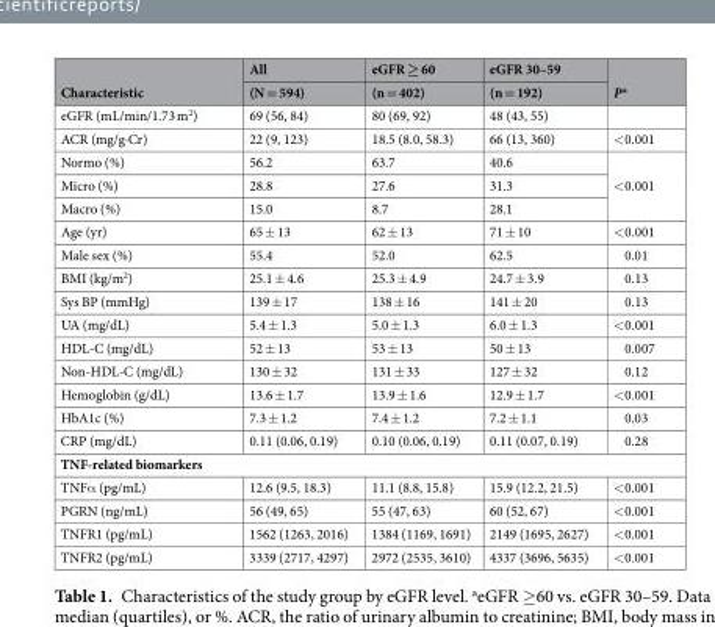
<table><thead><tr><td rowspan="2">Characteristic</td><td rowspan="2">All (N = 594)</td><td rowspan="2">eGFR ≥ 60 (n = 402)</td><td rowspan="2">eGFR 30–59 (n = 192)</td><td rowspan="2">P <sup>a</sup></td></tr><tr></tr></thead><tbody><tr><td>eGFR (mL/min/1.73 m<sup>2</sup>)</td><td>69 (56, 84)</td><td>80 (69, 92)</td><td>48 (43, 55)</td><td></td></tr><tr><td>ACR (mg/g·Cr)</td><td>22 (9, 123)</td><td>18.5 (8.0, 58.3)</td><td>66 (13, 360)</td><td>&lt;0.001</td></tr><tr><td>Normo (%)</td><td>56.2</td><td>63.7</td><td>40.6</td><td rowspan="3">&lt;0.001</td></tr><tr><td>Micro (%)</td><td>28.8</td><td>27.6</td><td>31.3</td></tr><tr><td>Macro (%)</td><td>15.0</td><td>8.7</td><td>28.1</td></tr><tr><td>Age (yr)</td><td>65 ± 13</td><td>62 ± 13</td><td>71 ± 10</td><td>&lt;0.001</td></tr><tr><td>Male sex (%)</td><td>55.4</td><td>52.0</td><td>62.5</td><td>0.01</td></tr><tr><td>BMI (kg/m<sup>2</sup>)</td><td>25.1 ± 4.6</td><td>25.3 ± 4.9</td><td>24.7 ± 3.9</td><td>0.13</td></tr><tr><td>Sys BP (mmHg)</td><td>139 ± 17</td><td>138 ± 16</td><td>141 ± 20</td><td>0.13</td></tr><tr><td>UA (mg/dL)</td><td>5.4 ± 1.3</td><td>5.0 ± 1.3</td><td>6.0 ± 1.3</td><td>&lt;0.001</td></tr><tr><td>HDL-C (mg/dL)</td><td>52 ± 13</td><td>53 ± 13</td><td>50 ± 13</td><td>0.007</td></tr><tr><td>Non-HDL-C (mg/dL)</td><td>130 ± 32</td><td>131 ± 33</td><td>127 ± 32</td><td>0.12</td></tr><tr><td>Hemoglobin (g/dL)</td><td>13.6 ± 1.7</td><td>13.9 ± 1.6</td><td>12.9 ± 1.7</td><td>&lt;0.001</td></tr><tr><td>HbA1c (%)</td><td>7.3 ± 1.2</td><td>7.4 ± 1.2</td><td>7.2 ± 1.1</td><td>0.03</td></tr><tr><td>CRP (mg/dL)</td><td>0.11 (0.06, 0.19)</td><td>0.10 (0.06, 0.19)</td><td>0.11 (0.07, 0.19)</td><td>0.28</td></tr><tr><td colspan="5">TNF-related biomarkers</td></tr><tr><td>TNFα (pg/mL)</td><td>12.6 (9.5, 18.3)</td><td>11.1 (8.8, 15.8)</td><td>15.9 (12.2, 21.5)</td><td>&lt;0.001</td></tr><tr><td>PGRN (ng/mL)</td><td>56 (49, 65)</td><td>55 (47, 63)</td><td>60 (52, 67)</td><td>&lt;0.001</td></tr><tr><td>TNFR1 (pg/mL)</td><td>1562 (1263, 2016)</td><td>1384 (1169, 1691)</td><td>2149 (1695, 2627)</td><td>&lt;0.001</td></tr><tr><td>TNFR2 (pg/mL)</td><td>3339 (2717, 4297)</td><td>2972 (2535, 3610)</td><td>4337 (3696, 5635)</td><td>&lt;0.001</td></tr></tbody></table>